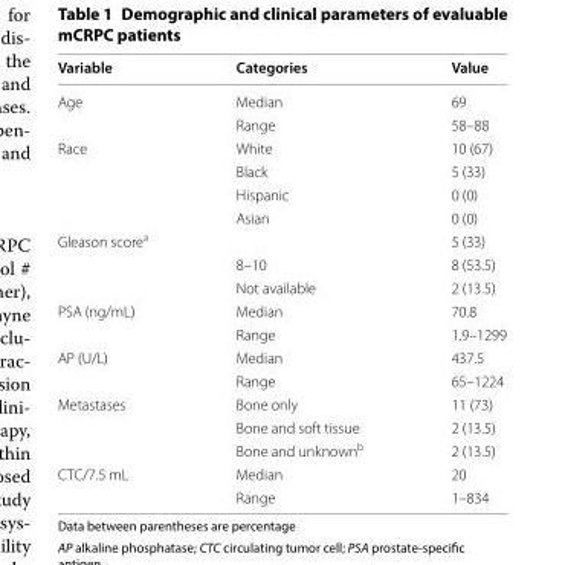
<table><thead><tr><td>Variable</td><td>Categories</td><td>Value</td></tr></thead><tbody><tr><td rowspan="2">Age</td><td>Median</td><td>69</td></tr><tr><td>Range</td><td>58–88</td></tr><tr><td rowspan="4">Race</td><td>White</td><td>10 (67)</td></tr><tr><td>Black</td><td>5 (33)</td></tr><tr><td>Hispanic</td><td>0 (0)</td></tr><tr><td>Asian</td><td>0 (0)</td></tr><tr><td rowspan="3">Gleason score<sup>a</sup></td><td></td><td>5 (33)</td></tr><tr><td>8–10</td><td>8 (53.5)</td></tr><tr><td>Not available</td><td>2 (13.5)</td></tr><tr><td rowspan="2">PSA (ng/mL)</td><td>Median</td><td>70.8</td></tr><tr><td>Range</td><td>1.9–1299</td></tr><tr><td rowspan="2">AP (U/L)</td><td>Median</td><td>437.5</td></tr><tr><td>Range</td><td>65–1224</td></tr><tr><td rowspan="3">Metastases</td><td>Bone only</td><td>11 (73)</td></tr><tr><td>Bone and soft tissue</td><td>2 (13.5)</td></tr><tr><td>Bone and unknown<sup>b</sup></td><td>2 (13.5)</td></tr><tr><td rowspan="2">CTC/7.5 mL</td><td>Median</td><td>20</td></tr><tr><td>Range</td><td>1–834</td></tr></tbody></table>